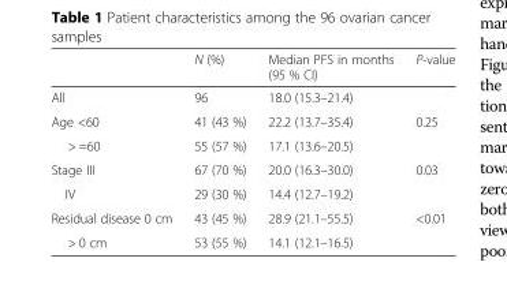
<table><thead><tr><td></td><td>N (%)</td><td>Median PFS in months (95 % CI)</td><td>P-value</td></tr></thead><tbody><tr><td>All</td><td>96</td><td>18.0 (15.3–21.4)</td><td></td></tr><tr><td>Age &lt;60</td><td>41 (43 %)</td><td>22.2 (13.7–35.4)</td><td>0.25</td></tr><tr><td>&gt; =60</td><td>55 (57 %)</td><td>17.1 (13.6–20.5)</td><td></td></tr><tr><td>Stage III</td><td>67 (70 %)</td><td>20.0 (16.3–30.0)</td><td>0.03</td></tr><tr><td>IV</td><td>29 (30 %)</td><td>14.4 (12.7–19.2)</td><td></td></tr><tr><td>Residual disease 0 cm</td><td>43 (45 %)</td><td>28.9 (21.1–55.5)</td><td>&lt;0.01</td></tr><tr><td>&gt; 0 cm</td><td>53 (55 %)</td><td>14.1 (12.1–16.5)</td><td></td></tr></tbody></table>